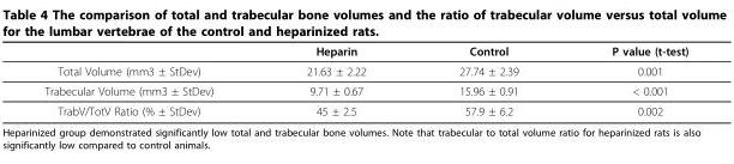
<table><thead><tr><td></td><td>Heparin</td><td>Control</td><td>P value (t-test)</td></tr></thead><tbody><tr><td>Total Volume (mm3 ± StDev)</td><td>21.63 ± 2.22</td><td>27.74 ± 2.39</td><td>0.001</td></tr><tr><td>Trabecular Volume (mm3 ± StDev)</td><td>9.71 ± 0.67</td><td>15.96 ± 0.91</td><td>&lt; 0.001</td></tr><tr><td>TrabV/TotV Ratio (% ± StDev)</td><td>45 ± 2.5</td><td>57.9 ± 6.2</td><td>0.002</td></tr></tbody></table>